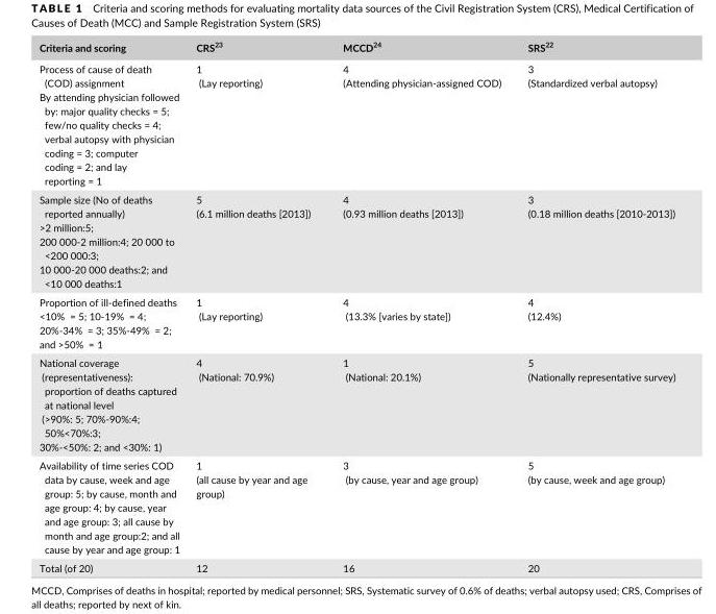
<table><thead><tr><td>Criteria and scoring</td><td>CRS<sup>23</sup></td><td>MCCD<sup>24</sup></td><td>SRS<sup>22</sup></td></tr></thead><tbody><tr><td>Process of cause of death (COD) assignment By attending physician followed by: major quality checks = 5; few/no quality checks = 4; verbal autopsy with physician coding = 3; computer coding = 2; and lay reporting = 1</td><td>1 (Lay reporting)</td><td>4 (Attending physician- assigned COD)</td><td>3 (Standardized verbal autopsy)</td></tr><tr><td>Sample size (No of deaths reported annually) &gt;2 million:5; 200 000- 2 million:4; 20 000 to &lt;200 000:3; 10 000- 20 000 deaths:2; and &lt;10 000 deaths:1</td><td>5 (6.1 million deaths [2013])</td><td>4 (0.93 million deaths [2013])</td><td>3 (0.18 million deaths [2010- 2013])</td></tr><tr><td>Proportion of ill- defined deaths &lt;10% = 5; 10- 19% = 4; 20%- 34% = 3; 35%- 49% = 2; and &gt;50% = 1</td><td>1 (Lay reporting)</td><td>4 (13.3% [varies by state])</td><td>4 (12.4%)</td></tr><tr><td>National coverage (representativeness): proportion of deaths captured at national level (&gt;90%: 5; 70%- 90%:4; 50%&lt;70%:3; 30%- &lt;50%: 2; and &lt;30%: 1)</td><td>4 (National: 70.9%)</td><td>1 (National: 20.1%)</td><td>5 (Nationally representative survey)</td></tr><tr><td>Availability of time series COD data by cause, week and age group: 5; by cause, month and age group: 4; by cause, year and age group: 3; all cause by month and age group:2; and all cause by year and age group: 1</td><td>1 (all cause by year and age group)</td><td>3 (by cause, year and age group)</td><td>5 (by cause, week and age group)</td></tr><tr><td>Total (of 20)</td><td>12</td><td>16</td><td>20</td></tr></tbody></table>